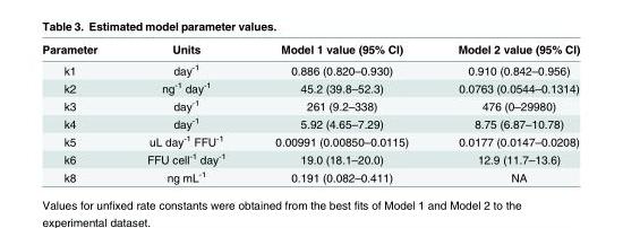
<table><thead><tr><td>Parameter</td><td>Units</td><td>Model 1 value (95% CI)</td><td>Model 2 value (95% CI)</td></tr></thead><tbody><tr><td>k1</td><td>day<sup>-1</sup></td><td>0.886 (0.820–0.930)</td><td>0.910 (0.842–0.956)</td></tr><tr><td>k2</td><td>ng<sup>-1</sup> day<sup>-1</sup></td><td>45.2 (39.8–52.3)</td><td>0.0763 (0.0544–0.1314)</td></tr><tr><td>k3</td><td>day<sup>-1</sup></td><td>261 (9.2–338)</td><td>476 (0–29980)</td></tr><tr><td>k4</td><td>day<sup>-1</sup></td><td>5.92 (4.65–7.29)</td><td>8.75 (6.87–10.78)</td></tr><tr><td>k5</td><td>uL day<sup>-1</sup> FFU<sup>-1</sup></td><td>0.00991 (0.00850–0.0115)</td><td>0.0177 (0.0147–0.0208)</td></tr><tr><td>k6</td><td>FFU cell<sup>-1</sup> day<sup>-1</sup></td><td>19.0 (18.1–20.0)</td><td>12.9 (11.7–13.6)</td></tr><tr><td>k8</td><td>ng mL<sup>-1</sup></td><td>0.191 (0.082–0.411)</td><td>NA</td></tr></tbody></table>